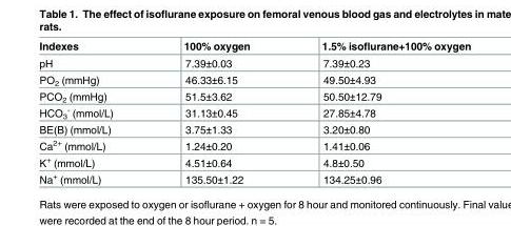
<table><thead><tr><td>Indexes</td><td>100% oxygen</td><td>1.5% isoflurane+100% oxygen</td></tr></thead><tbody><tr><td>pH</td><td>7.39±0.03</td><td>7.39±0.23</td></tr><tr><td>PO<sub>2</sub> (mmHg)</td><td>46.33±6.15</td><td>49.50±4.93</td></tr><tr><td>PCO<sub>2</sub> (mmHg)</td><td>51.5±3.62</td><td>50.50±12.79</td></tr><tr><td>HCO<sub>3</sub> <sup>-</sup> (mmol/L)</td><td>31.13±0.45</td><td>27.85±4.78</td></tr><tr><td>BE(B) (mmol/L)</td><td>3.75±1.33</td><td>3.20±0.80</td></tr><tr><td>Ca<sup>2+</sup> (mmol/L)</td><td>1.24±0.20</td><td>1.41±0.06</td></tr><tr><td>K<sup>+</sup> (mmol/L)</td><td>4.51±0.64</td><td>4.8±0.50</td></tr><tr><td>Na<sup>+</sup> (mmol/L)</td><td>135.50±1.22</td><td>134.25±0.96</td></tr></tbody></table>